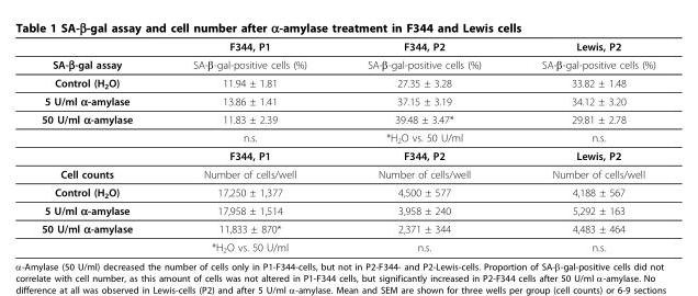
<table><thead><tr><td></td><td>F344, P1</td><td>F344, P2</td><td>Lewis, P2</td></tr></thead><tbody><tr><td>SA-β-gal assay</td><td>SA-β-gal-positive cells (%)</td><td>SA-β-gal-positive cells (%)</td><td>SA-β-gal-positive cells (%)</td></tr><tr><td>Control (H<sub>2</sub>O)</td><td>11.94 ± 1.81</td><td>27.35 ± 3.28</td><td>33.82 ± 1.48</td></tr><tr><td>5 U/ml α-amylase</td><td>13.86 ± 1.41</td><td>37.15 ± 3.19</td><td>34.12 ± 3.20</td></tr><tr><td rowspan="3">50 U/ml α-amylase</td><td>11.83 ± 2.39</td><td>39.48 ± 3.47*</td><td>29.81 ± 2.78</td></tr><tr><td>n.s.</td><td>*H<sub>2</sub>O vs. 50 U/ml</td><td>n.s.</td></tr><tr><td>F344, P1</td><td>F344, P2</td><td>Lewis, P2</td></tr><tr><td>Cell counts</td><td>Number of cells/well</td><td>Number of cells/well</td><td>Number of cells/well</td></tr><tr><td>Control (H<sub>2</sub>O)</td><td>17,250 ± 1,377</td><td>4,500 ± 577</td><td>4,188 ± 567</td></tr><tr><td>5 U/ml α-amylase</td><td>17,958 ± 1,514</td><td>3,958 ± 240</td><td>5,292 ± 163</td></tr><tr><td rowspan="2">50 U/ml α-amylase</td><td>11,833 ± 870*</td><td>2,371 ± 344</td><td>4,483 ± 464</td></tr><tr><td>*H<sub>2</sub>O vs. 50 U/ml</td><td>n.s.</td><td>n.s.</td></tr></tbody></table>